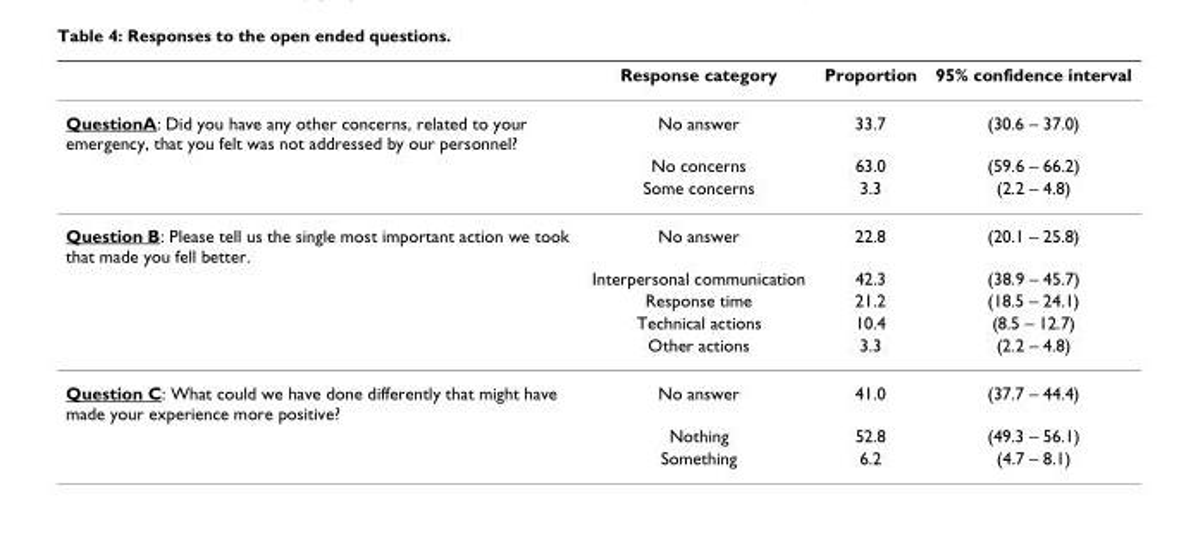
<table><thead><tr><td></td><td>Response category</td><td>Proportion</td><td>95% confidence interval</td></tr></thead><tbody><tr><td rowspan="3">QuestionA: Did you have any other concerns, related to your emergency, that you felt was not addressed by our personnel?</td><td>No answer</td><td>33.7</td><td>(30.6 – 37.0)</td></tr><tr><td>No concerns</td><td>63.0</td><td>(59.6 – 66.2)</td></tr><tr><td>Some concerns</td><td>3.3</td><td>(2.2 – 4.8)</td></tr><tr><td rowspan="5">Question B: Please tell us the single most important action we took that made you fell better.</td><td>No answer</td><td>22.8</td><td>(20.1 – 25.8)</td></tr><tr><td>Interpersonal communication</td><td>42.3</td><td>(38.9 – 45.7)</td></tr><tr><td>Response time</td><td>21.2</td><td>(18.5 – 24.1)</td></tr><tr><td>Technical actions</td><td>10.4</td><td>(8.5 – 12.7)</td></tr><tr><td>Other actions</td><td>3.3</td><td>(2.2 – 4.8)</td></tr><tr><td rowspan="3">Question C: What could we have done differently that might have made your experience more positive?</td><td>No answer</td><td>41.0</td><td>(37.7 – 44.4)</td></tr><tr><td>Nothing</td><td>52.8</td><td>(49.3 – 56.1)</td></tr><tr><td>Something</td><td>6.2</td><td>(4.7 – 8.1)</td></tr></tbody></table>